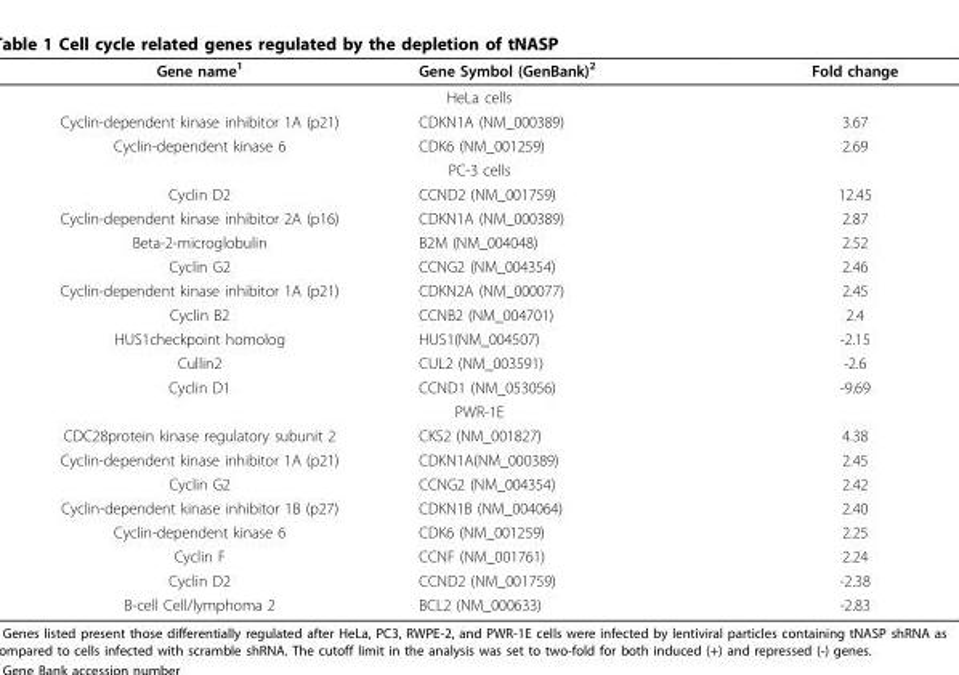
<table><thead><tr><td>Gene name<sup>1</sup></td><td>Gene Symbol (GenBank)<sup>2</sup></td><td>Fold change</td></tr></thead><tbody><tr><td colspan="3">HeLa cells</td></tr><tr><td>Cyclin-dependent kinase inhibitor 1A (p21)</td><td>CDKN1A (NM_000389)</td><td>3.67</td></tr><tr><td>Cyclin-dependent kinase 6</td><td>CDK6 (NM_001259)</td><td>2.69</td></tr><tr><td colspan="3">PC-3 cells</td></tr><tr><td>Cyclin D2</td><td>CCND2 (NM_001759)</td><td>12.45</td></tr><tr><td>Cyclin-dependent kinase inhibitor 2A (p16)</td><td>CDKN1A (NM_000389)</td><td>2.87</td></tr><tr><td>Beta-2-microglobulin</td><td>B2M (NM_004048)</td><td>2.52</td></tr><tr><td>Cyclin G2</td><td>CCNG2 (NM_004354)</td><td>2.46</td></tr><tr><td>Cyclin-dependent kinase inhibitor 1A (p21)</td><td>CDKN2A (NM_000077)</td><td>2.45</td></tr><tr><td>Cyclin B2</td><td>CCNB2 (NM_004701)</td><td>2.4</td></tr><tr><td>HUS1checkpoint homolog</td><td>HUS1(NM_004507)</td><td>-2.15</td></tr><tr><td>Cullin2</td><td>CUL2 (NM_003591)</td><td>-2.6</td></tr><tr><td>Cyclin D1</td><td>CCND1 (NM_053056)</td><td>-9.69</td></tr><tr><td colspan="3">PWR-1E</td></tr><tr><td>CDC28protein kinase regulatory subunit 2</td><td>CKS2 (NM_001827)</td><td>4.38</td></tr><tr><td>Cyclin-dependent kinase inhibitor 1A (p21)</td><td>CDKN1A(NM_000389)</td><td>2.45</td></tr><tr><td>Cyclin G2</td><td>CCNG2 (NM_004354)</td><td>2.42</td></tr><tr><td>Cyclin-dependent kinase inhibitor 1B (p27)</td><td>CDKN1B (NM_004064)</td><td>2.40</td></tr><tr><td>Cyclin-dependent kinase 6</td><td>CDK6 (NM_001259)</td><td>2.25</td></tr><tr><td>Cyclin F</td><td>CCNF (NM_001761)</td><td>2.24</td></tr><tr><td>Cyclin D2</td><td>CCND2 (NM_001759)</td><td>-2.38</td></tr><tr><td>B-cell Cell/lymphoma 2</td><td>BCL2 (NM_000633)</td><td>-2.83</td></tr></tbody></table>